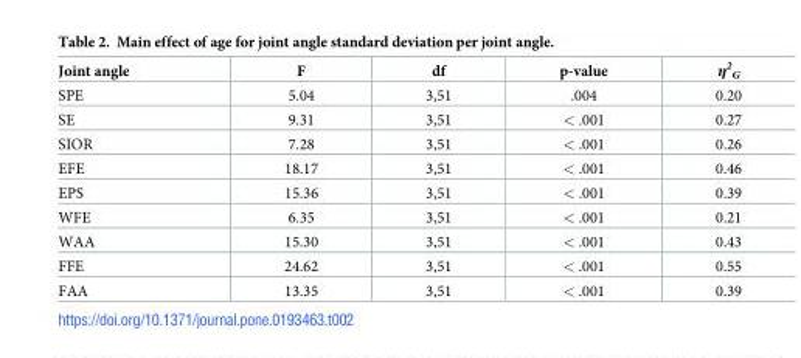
<table><thead><tr><td>Joint angle</td><td>F</td><td>df</td><td>p-value</td><td>η<sup>2</sup> <sub>G</sub></td></tr></thead><tbody><tr><td>SPE</td><td>5.04</td><td>3,51</td><td>.004</td><td>0.20</td></tr><tr><td>SE</td><td>9.31</td><td>3,51</td><td>&lt; .001</td><td>0.27</td></tr><tr><td>SIOR</td><td>7.28</td><td>3,51</td><td>&lt; .001</td><td>0.26</td></tr><tr><td>EFE</td><td>18.17</td><td>3,51</td><td>&lt; .001</td><td>0.46</td></tr><tr><td>EPS</td><td>15.36</td><td>3,51</td><td>&lt; .001</td><td>0.39</td></tr><tr><td>WFE</td><td>6.35</td><td>3,51</td><td>&lt; .001</td><td>0.21</td></tr><tr><td>WAA</td><td>15.30</td><td>3,51</td><td>&lt; .001</td><td>0.43</td></tr><tr><td>FFE</td><td>24.62</td><td>3,51</td><td>&lt; .001</td><td>0.55</td></tr><tr><td>FAA</td><td>13.35</td><td>3,51</td><td>&lt; .001</td><td>0.39</td></tr></tbody></table>